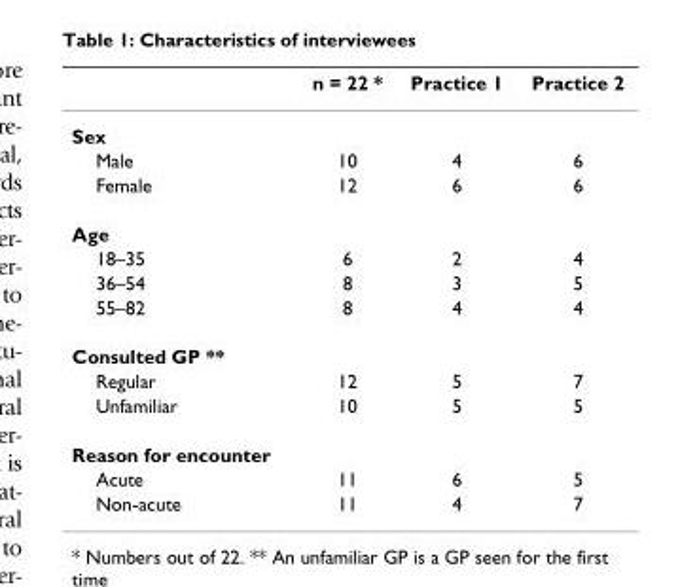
<table><thead><tr><td></td><td>n = 22 *</td><td>Practice 1</td><td>Practice 2</td></tr></thead><tbody><tr><td colspan="4">Sex</td></tr><tr><td>Male</td><td>10</td><td>4</td><td>6</td></tr><tr><td>Female</td><td>12</td><td>6</td><td>6</td></tr><tr><td colspan="4">Age</td></tr><tr><td>18–35</td><td>6</td><td>2</td><td>4</td></tr><tr><td>36–54</td><td>8</td><td>3</td><td>5</td></tr><tr><td>55–82</td><td>8</td><td>4</td><td>4</td></tr><tr><td colspan="4">Consulted GP **</td></tr><tr><td>Regular</td><td>12</td><td>5</td><td>7</td></tr><tr><td>Unfamiliar</td><td>10</td><td>5</td><td>5</td></tr><tr><td colspan="4">Reason for encounter</td></tr><tr><td>Acute</td><td>11</td><td>6</td><td>5</td></tr><tr><td>Non-acute</td><td>11</td><td>4</td><td>7</td></tr></tbody></table>